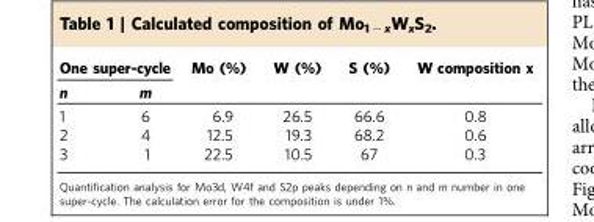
<table><thead><tr><td colspan="2">One super-cycle</td><td rowspan="2">Mo (%)</td><td rowspan="2">W (%)</td><td rowspan="2">S (%)</td><td rowspan="2">W composition x</td></tr><tr><td>n</td><td>m</td></tr></thead><tbody><tr><td>1</td><td>6</td><td>6.9</td><td>26.5</td><td>66.6</td><td>0.8</td></tr><tr><td>2</td><td>4</td><td>12.5</td><td>19.3</td><td>68.2</td><td>0.6</td></tr><tr><td>3</td><td>1</td><td>22.5</td><td>10.5</td><td>67</td><td>0.3</td></tr></tbody></table>